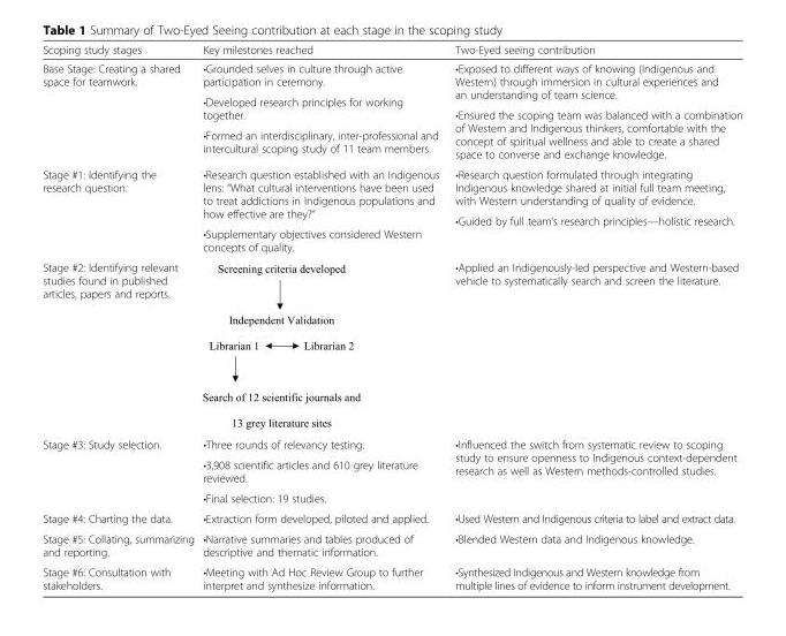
<table><thead><tr><td>Scoping study stages</td><td>Key milestones reached</td><td>Two-Eyed seeing contribution</td></tr></thead><tbody><tr><td rowspan="4">Base Stage: Creating a shared space for teamwork.</td><td>•Grounded selves in culture through active participation in ceremony.</td><td rowspan="2">•Exposed to different ways of knowing (Indigenous and Western) through immersion in cultural experiences and an understanding of team science.</td></tr><tr><td rowspan="2">•Developed research principles for working together.</td></tr><tr><td rowspan="2">•Ensured the scoping team was balanced with a combination of Western and Indigenous thinkers, comfortable with the concept of spiritual wellness and able to create a shared space to converse and exchange knowledge.</td></tr><tr><td>•Formed an interdisciplinary, inter-professional and intercultural scoping study of 11 team members.</td></tr><tr><td rowspan="3">Stage #1: Identifying the research question.</td><td rowspan="2">•Research question established with an Indigenous lens: “What cultural interventions have been used to treat addictions in Indigenous populations and how effective are they?”</td><td>•Research question formulated through integrating Indigenous knowledge shared at initial full team meeting, with Western understanding of quality of evidence.</td></tr><tr><td rowspan="2">•Guided by full team’s research principles—holistic research.</td></tr><tr><td>•Supplementary objectives considered Western concepts of quality.</td></tr><tr><td>Stage #2: Identifying relevant studies found in published articles, papers and reports.</td><td></td><td>•Applied an Indigenously-led perspective and Western-based vehicle to systematically search and screen the literature.</td></tr><tr><td rowspan="3">Stage #3: Study selection.</td><td>•Three rounds of relevancy testing.</td><td rowspan="3">•Influenced the switch from systematic review to scoping study to ensure openness to Indigenous context-dependent research as well as Western methods-controlled studies.</td></tr><tr><td>•3,908 scientific articles and 610 grey literature reviewed.</td></tr><tr><td>•Final selection: 19 studies.</td></tr><tr><td>Stage #4: Charting the data.</td><td>•Extraction form developed, piloted and applied.</td><td>•Used Western and Indigenous criteria to label and extract data.</td></tr><tr><td>Stage #5: Collating, summarizing and reporting.</td><td>•Narrative summaries and tables produced of descriptive and thematic information.</td><td>•Blended Western data and Indigenous knowledge.</td></tr><tr><td>Stage #6: Consultation with stakeholders.</td><td>•Meeting with Ad Hoc Review Group to further interpret and synthesize information.</td><td>•Synthesized Indigenous and Western knowledge from multiple lines of evidence to inform instrument development.</td></tr></tbody></table>